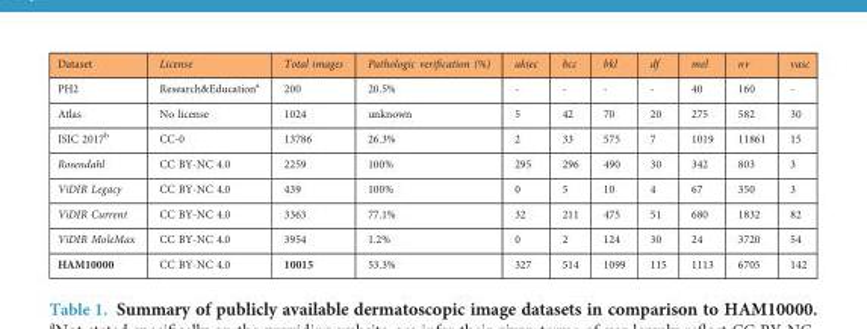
<table><thead><tr><td>Dataset</td><td>License</td><td>Total images</td><td>Pathologic verification (%)</td><td>akiec</td><td>bcc</td><td>bkl</td><td>df</td><td>mel</td><td>nv</td><td>vasc</td></tr></thead><tbody><tr><td>PH2</td><td>Research&amp;Education<sup>a</sup></td><td>200</td><td>20.5%</td><td>-</td><td>-</td><td>-</td><td>-</td><td>40</td><td>160</td><td>-</td></tr><tr><td>Atlas</td><td>No license</td><td>1024</td><td>unknown</td><td>5</td><td>42</td><td>70</td><td>20</td><td>275</td><td>582</td><td>30</td></tr><tr><td>ISIC 2017<sup>b</sup></td><td>CC-0</td><td>13786</td><td>26.3%</td><td>2</td><td>33</td><td>575</td><td>7</td><td>1019</td><td>11861</td><td>15</td></tr><tr><td>Rosendahl</td><td>CC BY-NC 4.0</td><td>2259</td><td>100%</td><td>295</td><td>296</td><td>490</td><td>30</td><td>342</td><td>803</td><td>3</td></tr><tr><td>ViDIR Legacy</td><td>CC BY-NC 4.0</td><td>439</td><td>100%</td><td>0</td><td>5</td><td>10</td><td>4</td><td>67</td><td>350</td><td>3</td></tr><tr><td>ViDIR Current</td><td>CC BY-NC 4.0</td><td>3363</td><td>77.1%</td><td>32</td><td>211</td><td>475</td><td>51</td><td>680</td><td>1832</td><td>82</td></tr><tr><td>ViDIR MoleMax</td><td>CC BY-NC 4.0</td><td>3954</td><td>1.2%</td><td>0</td><td>2</td><td>124</td><td>30</td><td>24</td><td>3720</td><td>54</td></tr><tr><td>HAM10000</td><td>CC BY-NC 4.0</td><td>10015</td><td>53.3%</td><td>327</td><td>514</td><td>1099</td><td>115</td><td>1113</td><td>6705</td><td>142</td></tr></tbody></table>